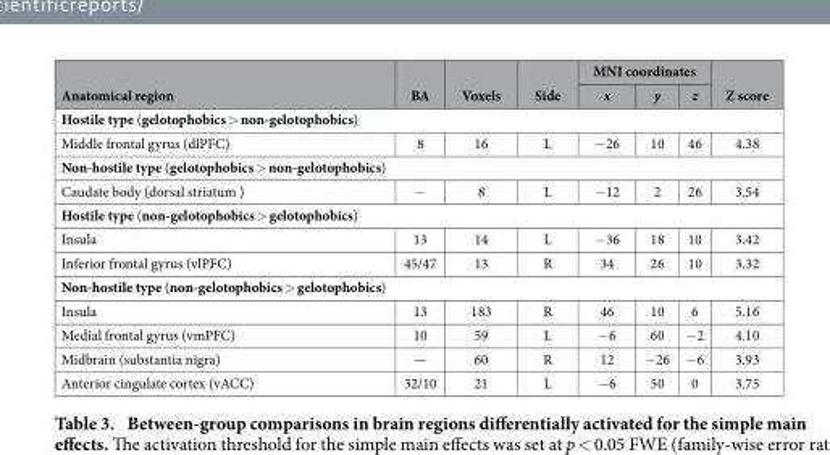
<table><thead><tr><td rowspan="2">Anatomical region</td><td rowspan="2">BA</td><td rowspan="2">Voxels</td><td rowspan="2">Side</td><td colspan="3">MNI coordinates</td><td rowspan="2">Z score</td></tr><tr><td>x</td><td>y</td><td>z</td></tr></thead><tbody><tr><td colspan="8">Hostile type (gelotophobics &gt; non-gelotophobics)</td></tr><tr><td>Middle frontal gyrus (dlPFC)</td><td>8</td><td>16</td><td>L</td><td>− 26</td><td>10</td><td>46</td><td>4.38</td></tr><tr><td colspan="8">Non-hostile type (gelotophobics &gt; non-gelotophobics)</td></tr><tr><td>Caudate body (dorsal striatum )</td><td>−</td><td>8</td><td>L</td><td>− 12</td><td>2</td><td>26</td><td>3.54</td></tr><tr><td colspan="8">Hostile type (non-gelotophobics &gt; gelotophobics)</td></tr><tr><td>Insula</td><td>13</td><td>14</td><td>L</td><td>− 36</td><td>18</td><td>10</td><td>3.42</td></tr><tr><td>Inferior frontal gyrus (vlPFC)</td><td>45/47</td><td>13</td><td>R</td><td>34</td><td>26</td><td>10</td><td>3.32</td></tr><tr><td colspan="8">Non-hostile type (non-gelotophobics &gt; gelotophobics)</td></tr><tr><td>Insula</td><td>13</td><td>183</td><td>R</td><td>46</td><td>10</td><td>6</td><td>5.16</td></tr><tr><td>Medial frontal gyrus (vmPFC)</td><td>10</td><td>59</td><td>L</td><td>− 6</td><td>60</td><td>− 2</td><td>4.10</td></tr><tr><td>Midbrain (substantia nigra)</td><td>—</td><td>60</td><td>R</td><td>12</td><td>− 26</td><td>− 6</td><td>3.93</td></tr><tr><td>Anterior cingulate cortex (vACC)</td><td>32/10</td><td>21</td><td>L</td><td>− 6</td><td>50</td><td>0</td><td>3.75</td></tr></tbody></table>